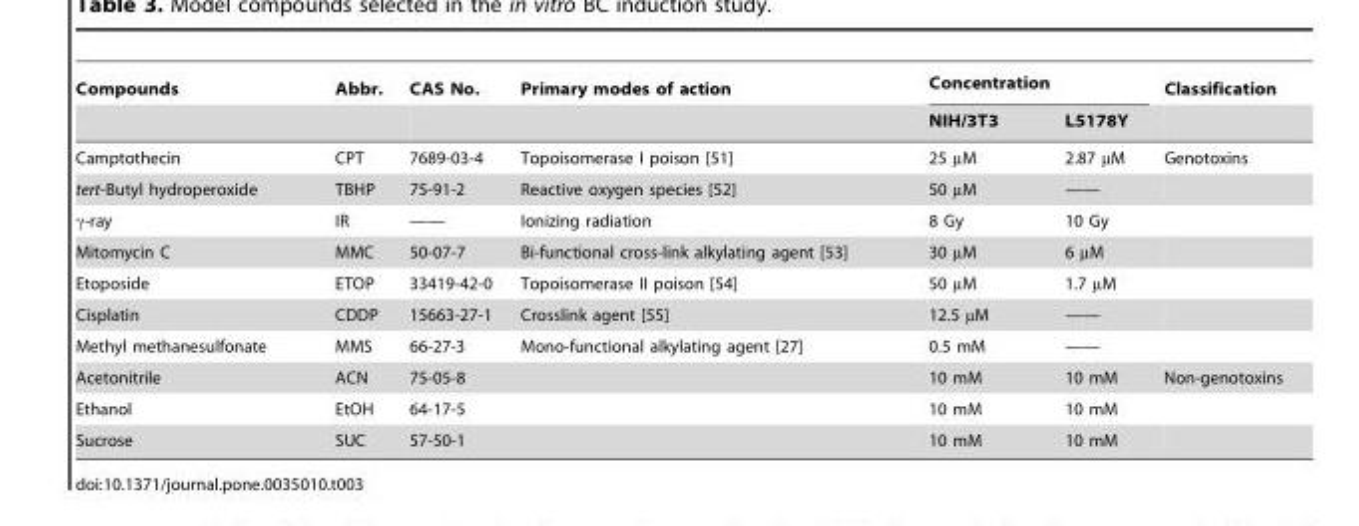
<table><thead><tr><td rowspan="2">Compounds</td><td rowspan="2">Abbr.</td><td rowspan="2">CAS No.</td><td rowspan="2">Primary modes of action</td><td colspan="2">Concentration</td><td rowspan="2">Classification</td></tr><tr><td>NIH/3T3</td><td>L5178Y</td></tr></thead><tbody><tr><td>Camptothecin</td><td>CPT</td><td>7689-03-4</td><td>Topoisomerase I poison [51]</td><td>25 µM</td><td>2.87 µM</td><td>Genotoxins</td></tr><tr><td>tert-Butyl hydroperoxide</td><td>TBHP</td><td>75-91-2</td><td>Reactive oxygen species [52]</td><td>50 µM</td><td>——</td><td></td></tr><tr><td>γ-ray</td><td>IR</td><td>——</td><td>Ionizing radiation</td><td>8 Gy</td><td>10 Gy</td><td></td></tr><tr><td>Mitomycin C</td><td>MMC</td><td>50-07-7</td><td>Bi-functional cross-link alkylating agent [53]</td><td>30 µM</td><td>6 µM</td><td></td></tr><tr><td>Etoposide</td><td>ETOP</td><td>33419-42-0</td><td>Topoisomerase II poison [54]</td><td>50 µM</td><td>1.7 µM</td><td></td></tr><tr><td>Cisplatin</td><td>CDDP</td><td>15663-27-1</td><td>Crosslink agent [55]</td><td>12.5 µM</td><td>——</td><td></td></tr><tr><td>Methyl methanesulfonate</td><td>MMS</td><td>66-27-3</td><td>Mono-functional alkylating agent [27]</td><td>0.5 mM</td><td>——</td><td></td></tr><tr><td>Acetonitrile</td><td>ACN</td><td>75-05-8</td><td></td><td>10 mM</td><td>10 mM</td><td>Non-genotoxins</td></tr><tr><td>Ethanol</td><td>EtOH</td><td>64-17-5</td><td></td><td>10 mM</td><td>10 mM</td><td></td></tr><tr><td>Sucrose</td><td>SUC</td><td>57-50-1</td><td></td><td>10 mM</td><td>10 mM</td><td></td></tr></tbody></table>